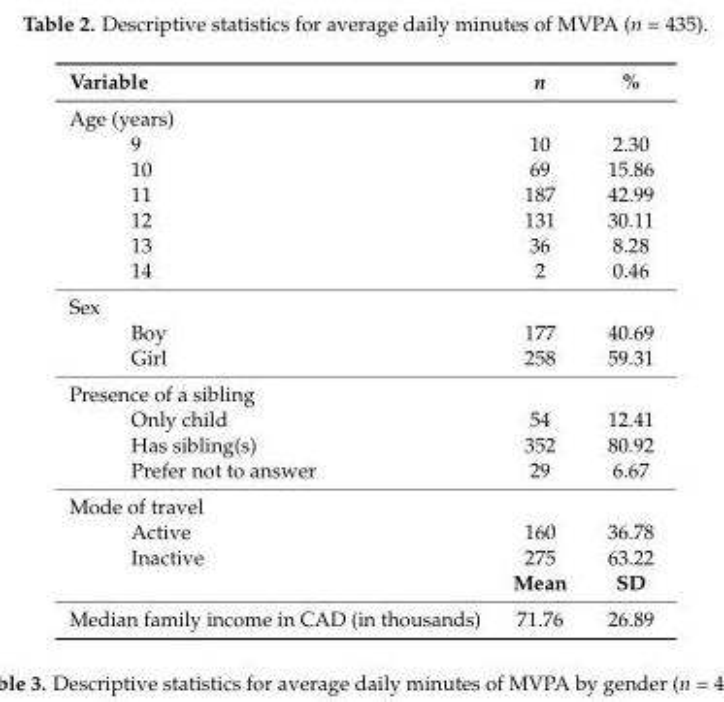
<table><thead><tr><td>Variable</td><td>n</td><td>%</td></tr></thead><tbody><tr><td colspan="3">Age (years)</td></tr><tr><td>9</td><td>10</td><td>2.30</td></tr><tr><td>10</td><td>69</td><td>15.86</td></tr><tr><td>11</td><td>187</td><td>42.99</td></tr><tr><td>12</td><td>131</td><td>30.11</td></tr><tr><td>13</td><td>36</td><td>8.28</td></tr><tr><td>14</td><td>2</td><td>0.46</td></tr><tr><td colspan="3">Sex</td></tr><tr><td>Boy</td><td>177</td><td>40.69</td></tr><tr><td>Girl</td><td>258</td><td>59.31</td></tr><tr><td colspan="3">Presence of a sibling</td></tr><tr><td>Only child</td><td>54</td><td>12.41</td></tr><tr><td>Has sibling(s)</td><td>352</td><td>80.92</td></tr><tr><td>Prefer not to answer</td><td>29</td><td>6.67</td></tr><tr><td colspan="3">Mode of travel</td></tr><tr><td>Active</td><td>160</td><td>36.78</td></tr><tr><td rowspan="2">Inactive</td><td>275</td><td>63.22</td></tr><tr><td>Mean</td><td>SD</td></tr><tr><td>Median family income in CAD (in thousands)</td><td>71.76</td><td>26.89</td></tr></tbody></table>